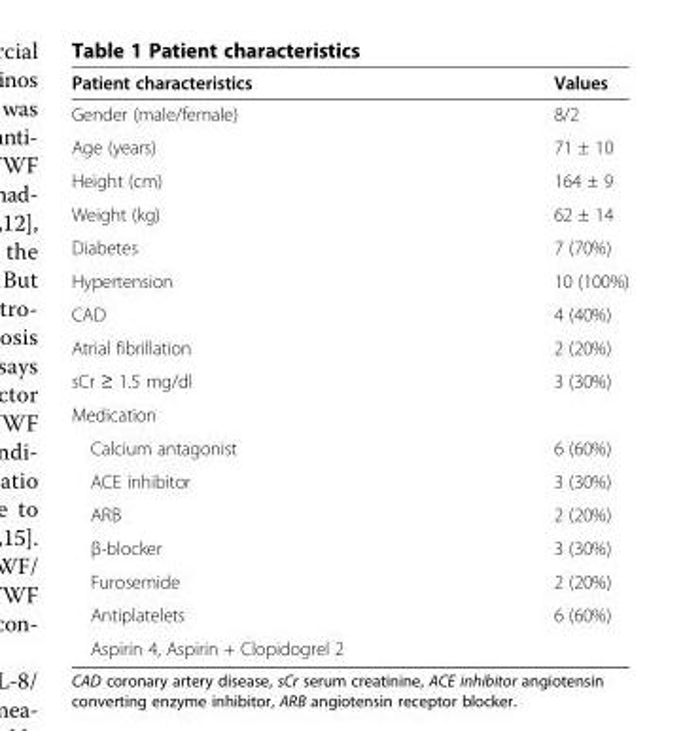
<table><thead><tr><td>Patient characteristics</td><td>Values</td></tr></thead><tbody><tr><td>Gender (male/female)</td><td>8/2</td></tr><tr><td>Age (years)</td><td>71 ± 10</td></tr><tr><td>Height (cm)</td><td>164 ± 9</td></tr><tr><td>Weight (kg)</td><td>62 ± 14</td></tr><tr><td>Diabetes</td><td>7 (70%)</td></tr><tr><td>Hypertension</td><td>10 (100%)</td></tr><tr><td>CAD</td><td>4 (40%)</td></tr><tr><td>Atrial fibrillation</td><td>2 (20%)</td></tr><tr><td>sCr ≥ 1.5 mg/dl</td><td>3 (30%)</td></tr><tr><td colspan="2">Medication</td></tr><tr><td>Calcium antagonist</td><td>6 (60%)</td></tr><tr><td>ACE inhibitor</td><td>3 (30%)</td></tr><tr><td>ARB</td><td>2 (20%)</td></tr><tr><td>β-blocker</td><td>3 (30%)</td></tr><tr><td>Furosemide</td><td>2 (20%)</td></tr><tr><td>Antiplatelets</td><td>6 (60%)</td></tr><tr><td>Aspirin 4, Aspirin + Clopidogrel 2</td><td></td></tr></tbody></table>